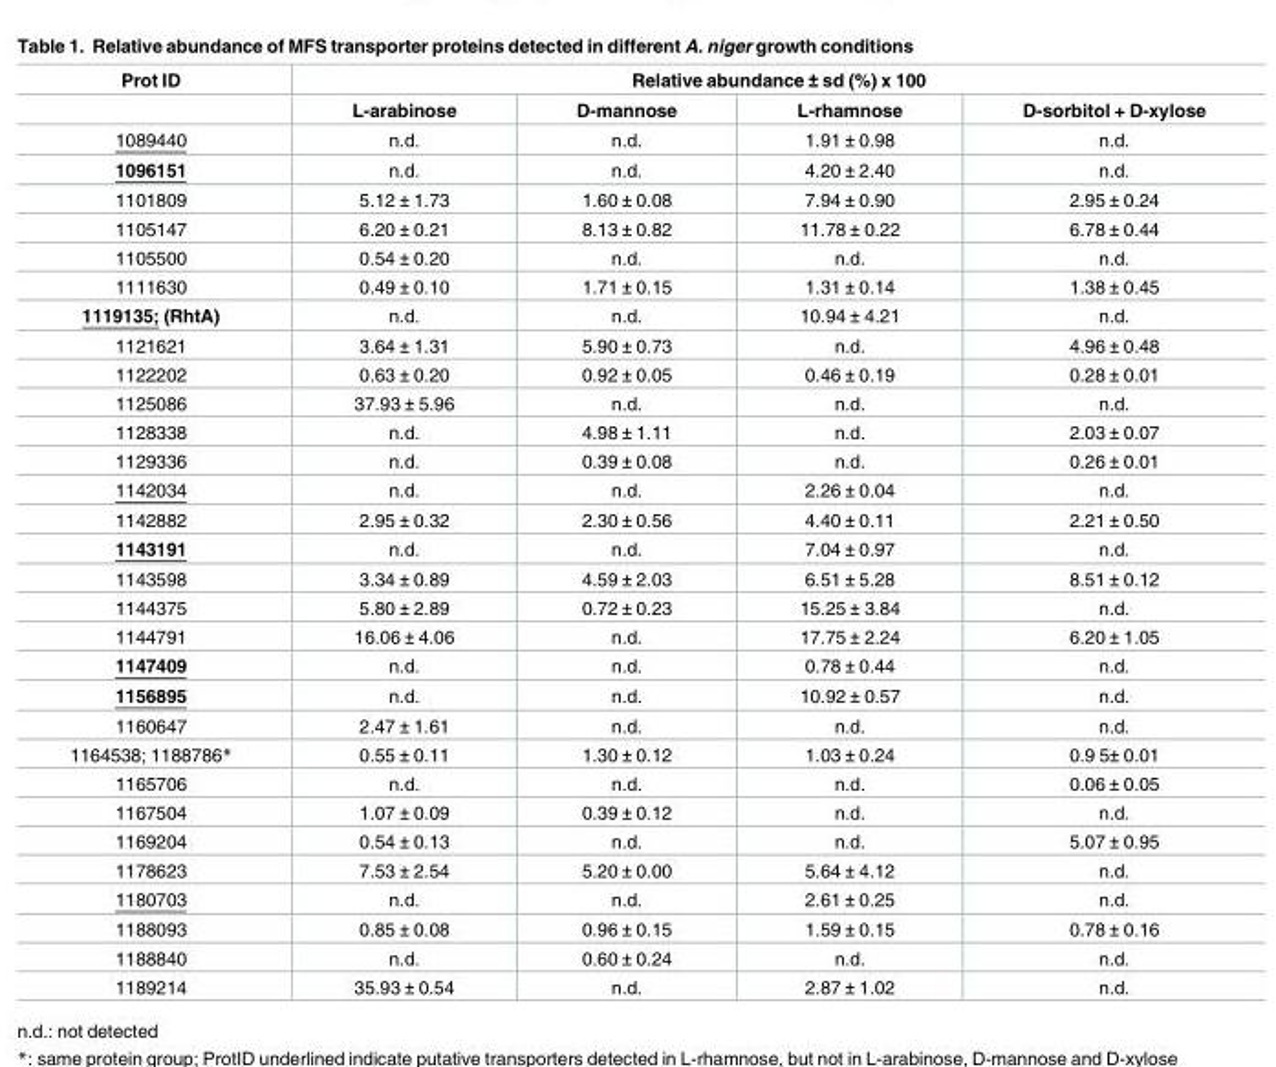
<table><thead><tr><td rowspan="2">Prot ID</td><td colspan="4">Relative abundance ± sd (%) x 100</td></tr><tr><td>L-arabinose</td><td>D-mannose</td><td>L-rhamnose</td><td>D-sorbitol + D-xylose</td></tr></thead><tbody><tr><td>1089440</td><td>n.d.</td><td>n.d.</td><td>1.91 ± 0.98</td><td>n.d.</td></tr><tr><td>1096151</td><td>n.d.</td><td>n.d.</td><td>4.20 ± 2.40</td><td>n.d.</td></tr><tr><td>1101809</td><td>5.12 ± 1.73</td><td>1.60 ± 0.08</td><td>7.94 ± 0.90</td><td>2.95 ± 0.24</td></tr><tr><td>1105147</td><td>6.20 ± 0.21</td><td>8.13 ± 0.82</td><td>11.78 ± 0.22</td><td>6.78 ± 0.44</td></tr><tr><td>1105500</td><td>0.54 ± 0.20</td><td>n.d.</td><td>n.d.</td><td>n.d.</td></tr><tr><td>1111630</td><td>0.49 ± 0.10</td><td>1.71 ± 0.15</td><td>1.31 ± 0.14</td><td>1.38 ± 0.45</td></tr><tr><td>1119135; (RhtA)</td><td>n.d.</td><td>n.d.</td><td>10.94 ± 4.21</td><td>n.d.</td></tr><tr><td>1121621</td><td>3.64 ± 1.31</td><td>5.90 ± 0.73</td><td>n.d.</td><td>4.96 ± 0.48</td></tr><tr><td>1122202</td><td>0.63 ± 0.20</td><td>0.92 ± 0.05</td><td>0.46 ± 0.19</td><td>0.28 ± 0.01</td></tr><tr><td>1125086</td><td>37.93 ± 5.96</td><td>n.d.</td><td>n.d.</td><td>n.d.</td></tr><tr><td>1128338</td><td>n.d.</td><td>4.98 ± 1.11</td><td>n.d.</td><td>2.03 ± 0.07</td></tr><tr><td>1129336</td><td>n.d.</td><td>0.39 ± 0.08</td><td>n.d.</td><td>0.26 ± 0.01</td></tr><tr><td>1142034</td><td>n.d.</td><td>n.d.</td><td>2.26 ± 0.04</td><td>n.d.</td></tr><tr><td>1142882</td><td>2.95 ± 0.32</td><td>2.30 ± 0.56</td><td>4.40 ± 0.11</td><td>2.21 ± 0.50</td></tr><tr><td>1143191</td><td>n.d.</td><td>n.d.</td><td>7.04 ± 0.97</td><td>n.d.</td></tr><tr><td>1143598</td><td>3.34 ± 0.89</td><td>4.59 ± 2.03</td><td>6.51 ± 5.28</td><td>8.51 ± 0.12</td></tr><tr><td>1144375</td><td>5.80 ± 2.89</td><td>0.72 ± 0.23</td><td>15.25 ± 3.84</td><td>n.d.</td></tr><tr><td>1144791</td><td>16.06 ± 4.06</td><td>n.d.</td><td>17.75 ± 2.24</td><td>6.20 ± 1.05</td></tr><tr><td>1147409</td><td>n.d.</td><td>n.d.</td><td>0.78 ± 0.44</td><td>n.d.</td></tr><tr><td>1156895</td><td>n.d.</td><td>n.d.</td><td>10.92 ± 0.57</td><td>n.d.</td></tr><tr><td>1160647</td><td>2.47 ± 1.61</td><td>n.d.</td><td>n.d.</td><td>n.d.</td></tr><tr><td>1164538; 1188786*</td><td>0.55 ± 0.11</td><td>1.30 ± 0.12</td><td>1.03 ± 0.24</td><td>0.9 5± 0.01</td></tr><tr><td>1165706</td><td>n.d.</td><td>n.d.</td><td>n.d.</td><td>0.06 ± 0.05</td></tr><tr><td>1167504</td><td>1.07 ± 0.09</td><td>0.39 ± 0.12</td><td>n.d.</td><td>n.d.</td></tr><tr><td>1169204</td><td>0.54 ± 0.13</td><td>n.d.</td><td>n.d.</td><td>5.07 ± 0.95</td></tr><tr><td>1178623</td><td>7.53 ± 2.54</td><td>5.20 ± 0.00</td><td>5.64 ± 4.12</td><td>n.d.</td></tr><tr><td>1180703</td><td>n.d.</td><td>n.d.</td><td>2.61 ± 0.25</td><td>n.d.</td></tr><tr><td>1188093</td><td>0.85 ± 0.08</td><td>0.96 ± 0.15</td><td>1.59 ± 0.15</td><td>0.78 ± 0.16</td></tr><tr><td>1188840</td><td>n.d.</td><td>0.60 ± 0.24</td><td>n.d.</td><td>n.d.</td></tr><tr><td>1189214</td><td>35.93 ± 0.54</td><td>n.d.</td><td>2.87 ± 1.02</td><td>n.d.</td></tr></tbody></table>